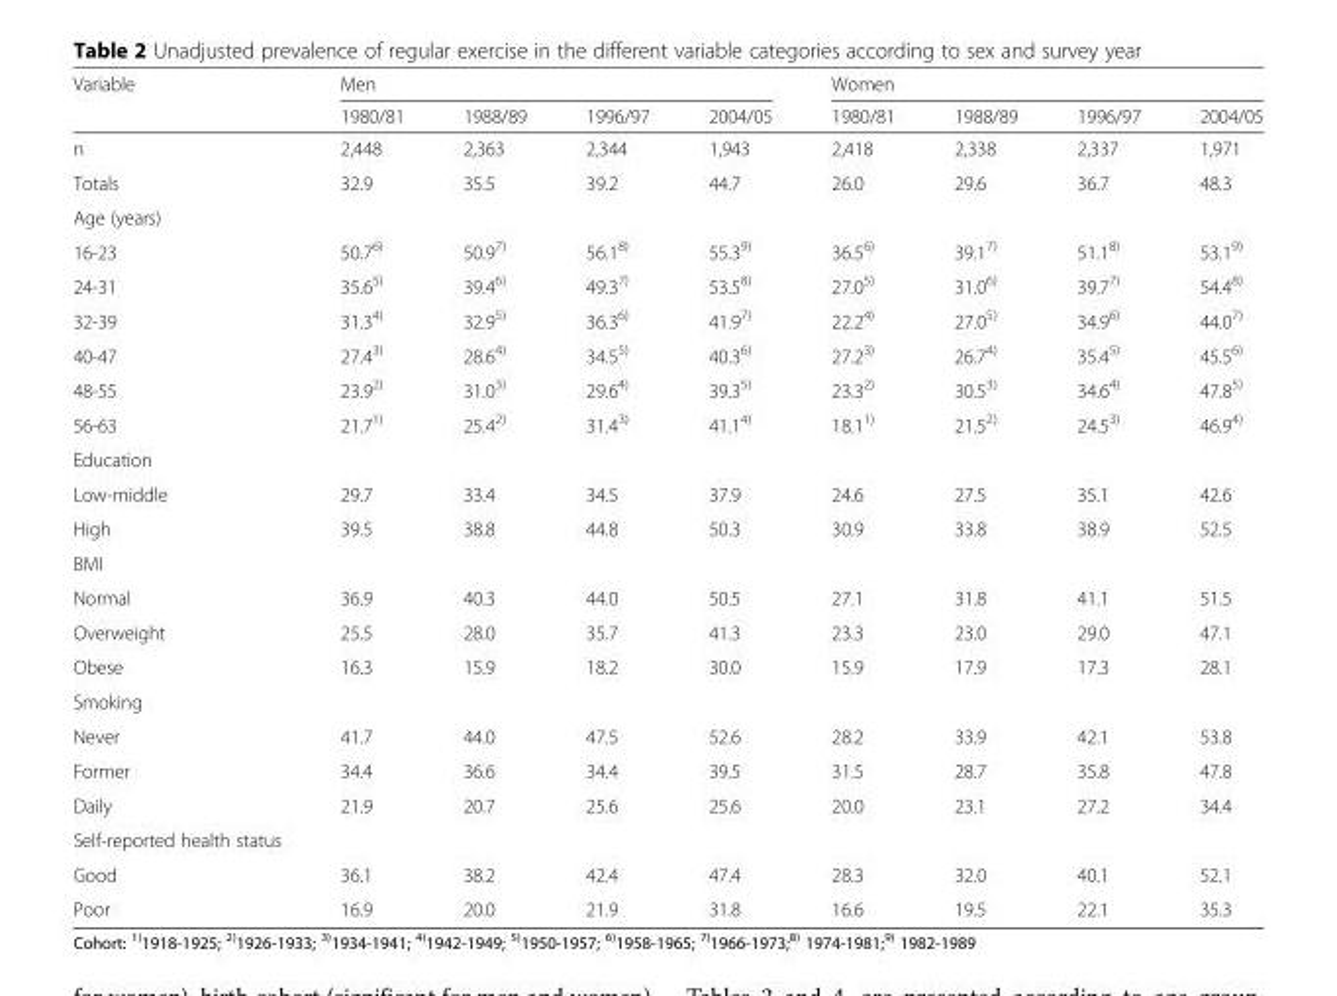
<table><thead><tr><td rowspan="2">Variable</td><td colspan="4">Men</td><td colspan="4">Women</td></tr><tr><td>1980/81</td><td>1988/89</td><td>1996/97</td><td>2004/05</td><td>1980/81</td><td>1988/89</td><td>1996/97</td><td>2004/05</td></tr></thead><tbody><tr><td>n</td><td>2,448</td><td>2,363</td><td>2,344</td><td>1,943</td><td>2,418</td><td>2,338</td><td>2,337</td><td>1,971</td></tr><tr><td>Totals</td><td>32.9</td><td>35.5</td><td>39.2</td><td>44.7</td><td>26.0</td><td>29.6</td><td>36.7</td><td>48.3</td></tr><tr><td colspan="9">Age (years)</td></tr><tr><td>16-23</td><td>50.7<sup>6)</sup></td><td>50.9<sup>7)</sup></td><td>56.1<sup>8)</sup></td><td>55.3<sup>9)</sup></td><td>36.5<sup>6)</sup></td><td>39.1<sup>7)</sup></td><td>51.1<sup>8)</sup></td><td>53.1<sup>9)</sup></td></tr><tr><td>24-31</td><td>35.6<sup>5)</sup></td><td>39.4<sup>6)</sup></td><td>49.3<sup>7)</sup></td><td>53.5<sup>8)</sup></td><td>27.0<sup>5)</sup></td><td>31.0<sup>6)</sup></td><td>39.7<sup>7)</sup></td><td>54.4<sup>8)</sup></td></tr><tr><td>32-39</td><td>31.3<sup>4)</sup></td><td>32.9<sup>5)</sup></td><td>36.3<sup>6)</sup></td><td>41.9<sup>7)</sup></td><td>22.2<sup>4)</sup></td><td>27.0<sup>5)</sup></td><td>34.9<sup>6)</sup></td><td>44.0<sup>7)</sup></td></tr><tr><td>40-47</td><td>27.4<sup>3)</sup></td><td>28.6<sup>4)</sup></td><td>34.5<sup>5)</sup></td><td>40.3<sup>6)</sup></td><td>27.2<sup>3)</sup></td><td>26.7<sup>4)</sup></td><td>35.4<sup>5)</sup></td><td>45.5<sup>6)</sup></td></tr><tr><td>48-55</td><td>23.9<sup>2)</sup></td><td>31.0<sup>3)</sup></td><td>29.6<sup>4)</sup></td><td>39.3<sup>5)</sup></td><td>23.3<sup>2)</sup></td><td>30.5<sup>3)</sup></td><td>34.6<sup>4)</sup></td><td>47.8<sup>5)</sup></td></tr><tr><td>56-63</td><td>21.7<sup>1)</sup></td><td>25.4<sup>2)</sup></td><td>31.4<sup>3)</sup></td><td>41.1<sup>4)</sup></td><td>18.1<sup>1)</sup></td><td>21.5<sup>2)</sup></td><td>24.5<sup>3)</sup></td><td>46.9<sup>4)</sup></td></tr><tr><td colspan="9">Education</td></tr><tr><td>Low-middle</td><td>29.7</td><td>33.4</td><td>34.5</td><td>37.9</td><td>24.6</td><td>27.5</td><td>35.1</td><td>42.6</td></tr><tr><td>High</td><td>39.5</td><td>38.8</td><td>44.8</td><td>50.3</td><td>30.9</td><td>33.8</td><td>38.9</td><td>52.5</td></tr><tr><td colspan="9">BMI</td></tr><tr><td>Normal</td><td>36.9</td><td>40.3</td><td>44.0</td><td>50.5</td><td>27.1</td><td>31.8</td><td>41.1</td><td>51.5</td></tr><tr><td>Overweight</td><td>25.5</td><td>28.0</td><td>35.7</td><td>41.3</td><td>23.3</td><td>23.0</td><td>29.0</td><td>47.1</td></tr><tr><td>Obese</td><td>16.3</td><td>15.9</td><td>18.2</td><td>30.0</td><td>15.9</td><td>17.9</td><td>17.3</td><td>28.1</td></tr><tr><td colspan="9">Smoking</td></tr><tr><td>Never</td><td>41.7</td><td>44.0</td><td>47.5</td><td>52.6</td><td>28.2</td><td>33.9</td><td>42.1</td><td>53.8</td></tr><tr><td>Former</td><td>34.4</td><td>36.6</td><td>34.4</td><td>39.5</td><td>31.5</td><td>28.7</td><td>35.8</td><td>47.8</td></tr><tr><td>Daily</td><td>21.9</td><td>20.7</td><td>25.6</td><td>25.6</td><td>20.0</td><td>23.1</td><td>27.2</td><td>34.4</td></tr><tr><td colspan="9">Self-reported health status</td></tr><tr><td>Good</td><td>36.1</td><td>38.2</td><td>42.4</td><td>47.4</td><td>28.3</td><td>32.0</td><td>40.1</td><td>52.1</td></tr><tr><td>Poor</td><td>16.9</td><td>20.0</td><td>21.9</td><td>31.8</td><td>16.6</td><td>19.5</td><td>22.1</td><td>35.3</td></tr></tbody></table>